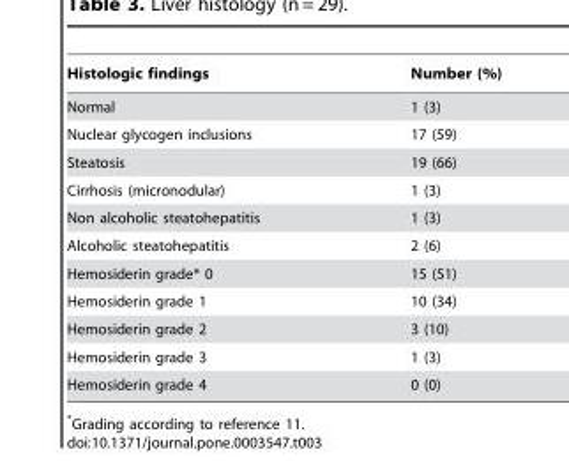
<table><thead><tr><td>Histologic findings</td><td>Number (%)</td></tr></thead><tbody><tr><td>Normal</td><td>1 (3)</td></tr><tr><td>Nuclear glycogen inclusions</td><td>17 (59)</td></tr><tr><td>Steatosis</td><td>19 (66)</td></tr><tr><td>Cirrhosis (micronodular)</td><td>1 (3)</td></tr><tr><td>Non alcoholic steatohepatitis</td><td>1 (3)</td></tr><tr><td>Alcoholic steatohepatitis</td><td>2 (6)</td></tr><tr><td>Hemosiderin grade* 0</td><td>15 (51)</td></tr><tr><td>Hemosiderin grade 1</td><td>10 (34)</td></tr><tr><td>Hemosiderin grade 2</td><td>3 (10)</td></tr><tr><td>Hemosiderin grade 3</td><td>1 (3)</td></tr><tr><td>Hemosiderin grade 4</td><td>0 (0)</td></tr></tbody></table>